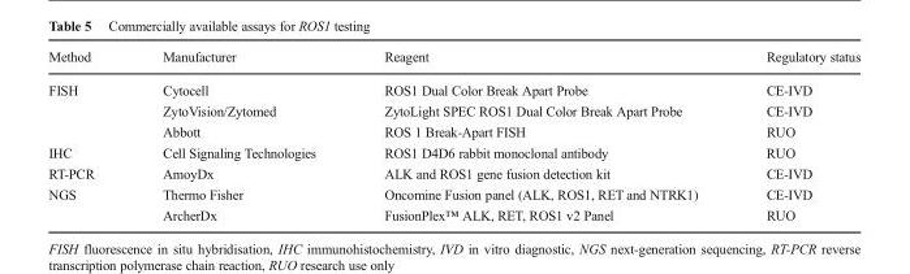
<table><thead><tr><td>Method</td><td>Manufacturer</td><td>Reagent</td><td>Regulatory status</td></tr></thead><tbody><tr><td rowspan="3">FISH</td><td>Cytocell</td><td>ROS1 Dual Color Break Apart Probe</td><td>CE-IVD</td></tr><tr><td>ZytoVision/Zytomed</td><td>ZytoLight SPEC ROS1 Dual Color Break Apart Probe</td><td>CE-IVD</td></tr><tr><td>Abbott</td><td>ROS 1 Break-Apart FISH</td><td>RUO</td></tr><tr><td>IHC</td><td>Cell Signaling Technologies</td><td>ROS1 D4D6 rabbit monoclonal antibody</td><td>RUO</td></tr><tr><td>RT-PCR</td><td>AmoyDx</td><td>ALK and ROS1 gene fusion detection kit</td><td>CE-IVD</td></tr><tr><td rowspan="2">NGS</td><td>Thermo Fisher</td><td>Oncomine Fusion panel (ALK, ROS1, RET and NTRK1)</td><td>CE-IVD</td></tr><tr><td>ArcherDx</td><td>FusionPlex™ ALK, RET, ROS1 v2 Panel</td><td>RUO</td></tr></tbody></table>